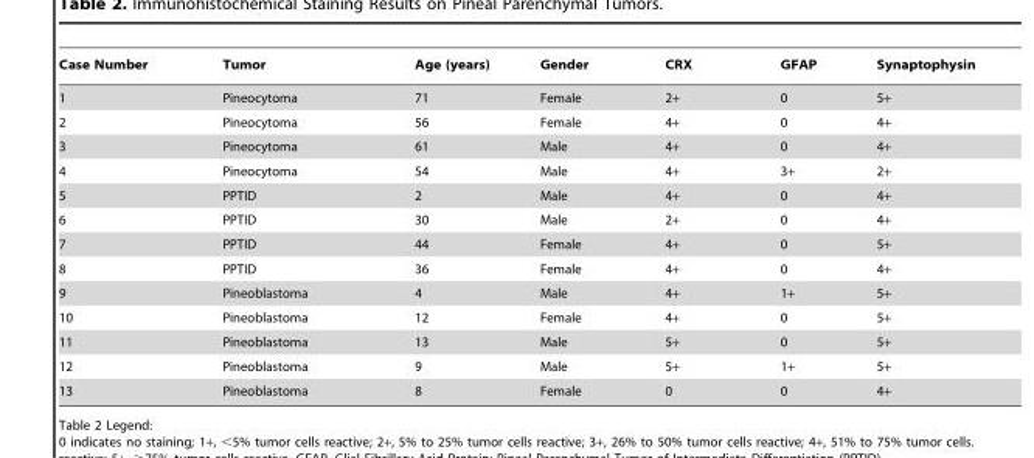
<table><thead><tr><td>Case Number</td><td>Tumor</td><td>Age (years)</td><td>Gender</td><td>CRX</td><td>GFAP</td><td>Synaptophysin</td></tr></thead><tbody><tr><td>1</td><td>Pineocytoma</td><td>71</td><td>Female</td><td>2+</td><td>0</td><td>5+</td></tr><tr><td>2</td><td>Pineocytoma</td><td>56</td><td>Female</td><td>4+</td><td>0</td><td>4+</td></tr><tr><td>3</td><td>Pineocytoma</td><td>61</td><td>Male</td><td>4+</td><td>0</td><td>4+</td></tr><tr><td>4</td><td>Pineocytoma</td><td>54</td><td>Male</td><td>4+</td><td>3+</td><td>2+</td></tr><tr><td>5</td><td>PPTID</td><td>2</td><td>Male</td><td>4+</td><td>0</td><td>4+</td></tr><tr><td>6</td><td>PPTID</td><td>30</td><td>Male</td><td>2+</td><td>0</td><td>4+</td></tr><tr><td>7</td><td>PPTID</td><td>44</td><td>Female</td><td>4+</td><td>0</td><td>5+</td></tr><tr><td>8</td><td>PPTID</td><td>36</td><td>Female</td><td>4+</td><td>0</td><td>4+</td></tr><tr><td>9</td><td>Pineoblastoma</td><td>4</td><td>Male</td><td>4+</td><td>1+</td><td>5+</td></tr><tr><td>10</td><td>Pineoblastoma</td><td>12</td><td>Female</td><td>4+</td><td>0</td><td>5+</td></tr><tr><td>11</td><td>Pineoblastoma</td><td>13</td><td>Male</td><td>5+</td><td>0</td><td>5+</td></tr><tr><td>12</td><td>Pineoblastoma</td><td>9</td><td>Male</td><td>5+</td><td>1+</td><td>5+</td></tr><tr><td>13</td><td>Pineoblastoma</td><td>8</td><td>Female</td><td>0</td><td>0</td><td>4+</td></tr></tbody></table>